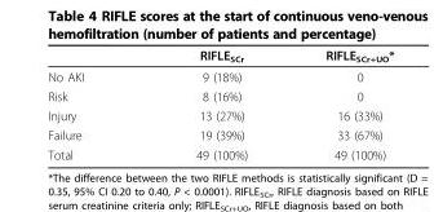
<table><thead><tr><td></td><td>RIFLE<sub>SCr</sub></td><td>RIFLE<sub>SCr+UO</sub>*</td></tr></thead><tbody><tr><td>No AKI</td><td>9 (18%)</td><td>0</td></tr><tr><td>Risk</td><td>8 (16%)</td><td>0</td></tr><tr><td>Injury</td><td>13 (27%)</td><td>16 (33%)</td></tr><tr><td>Failure</td><td>19 (39%)</td><td>33 (67%)</td></tr><tr><td>Total</td><td>49 (100%)</td><td>49 (100%)</td></tr></tbody></table>